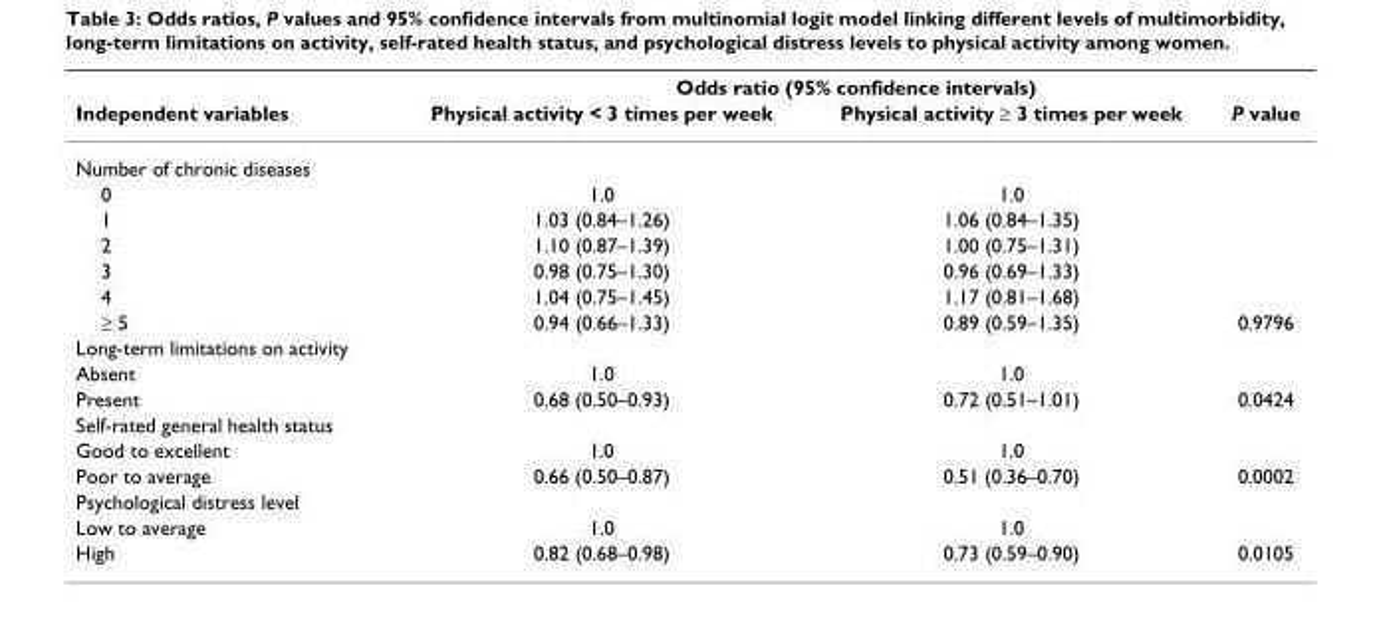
<table><thead><tr><td rowspan="2">Independent variables</td><td colspan="3">Odds ratio (95% confidence intervals)</td></tr><tr><td>Physical activity &lt; 3 times per week</td><td>Physical activity ≥ 3 times per week</td><td>P value</td></tr></thead><tbody><tr><td colspan="4">Number of chronic diseases</td></tr><tr><td>0</td><td>1.0</td><td>1.0</td><td></td></tr><tr><td>1</td><td>1.03 (0.84–1.26)</td><td>1.06 (0.84–1.35)</td><td></td></tr><tr><td>2</td><td>1.10 (0.87–1.39)</td><td>1.00 (0.75–1.31)</td><td></td></tr><tr><td>3</td><td>0.98 (0.75–1.30)</td><td>0.96 (0.69–1.33)</td><td></td></tr><tr><td>4</td><td>1.04 (0.75–1.45)</td><td>1.17 (0.81–1.68)</td><td></td></tr><tr><td>≥ 5</td><td>0.94 (0.66–1.33)</td><td>0.89 (0.59–1.35)</td><td>0.9796</td></tr><tr><td colspan="4">Long-term limitations on activity</td></tr><tr><td>Absent</td><td>1.0</td><td>1.0</td><td></td></tr><tr><td>Present</td><td>0.68 (0.50–0.93)</td><td>0.72 (0.51–1.01)</td><td>0.0424</td></tr><tr><td colspan="4">Self-rated general health status</td></tr><tr><td>Good to excellent</td><td>1.0</td><td>1.0</td><td></td></tr><tr><td>Poor to average</td><td>0.66 (0.50–0.87)</td><td>0.51 (0.36–0.70)</td><td>0.0002</td></tr><tr><td colspan="4">Psychological distress level</td></tr><tr><td>Low to average</td><td>1.0</td><td>1.0</td><td></td></tr><tr><td>High</td><td>0.82 (0.68–0.98)</td><td>0.73 (0.59–0.90)</td><td>0.0105</td></tr></tbody></table>